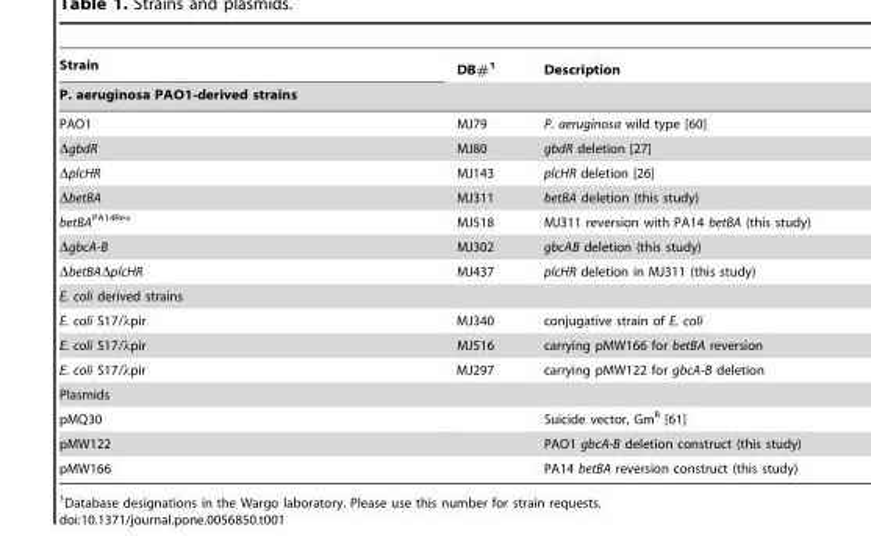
<table><thead><tr><td rowspan="2">Strain P. aeruginosa PAO1-derived strains</td><td rowspan="2">DB#<sup>1</sup></td><td rowspan="2">Description</td></tr><tr></tr></thead><tbody><tr><td>PAO1</td><td>MJ79</td><td>P. aeruginosa wild type [60]</td></tr><tr><td>ΔgbdR</td><td>MJ80</td><td>gbdR deletion [27]</td></tr><tr><td>ΔplcHR</td><td>MJ143</td><td>plcHR deletion [26]</td></tr><tr><td>ΔbetBA</td><td>MJ311</td><td>betBA deletion (this study)</td></tr><tr><td>betBA<sup>PA14Rev</sup></td><td>MJ518</td><td>MJ311 reversion with PA14 betBA (this study)</td></tr><tr><td>ΔgbcA-B</td><td>MJ302</td><td>gbcAB deletion (this study)</td></tr><tr><td>ΔbetBAΔplcHR</td><td>MJ437</td><td>plcHR deletion in MJ311 (this study)</td></tr><tr><td colspan="3">E. coli derived strains</td></tr><tr><td>E. coli S17/λpir</td><td>MJ340</td><td>conjugative strain of E. coli</td></tr><tr><td>E. coli S17/λpir</td><td>MJ516</td><td>carrying pMW166 for betBA reversion</td></tr><tr><td>E. coli S17/λpir</td><td>MJ297</td><td>carrying pMW122 for gbcA-B deletion</td></tr><tr><td colspan="3">Plasmids</td></tr><tr><td>pMQ30</td><td></td><td>Suicide vector, Gm<sup>R</sup> [61]</td></tr><tr><td>pMW122</td><td></td><td>PAO1 gbcA-B deletion construct (this study)</td></tr><tr><td>pMW166</td><td></td><td>PA14 betBA reversion construct (this study)</td></tr></tbody></table>